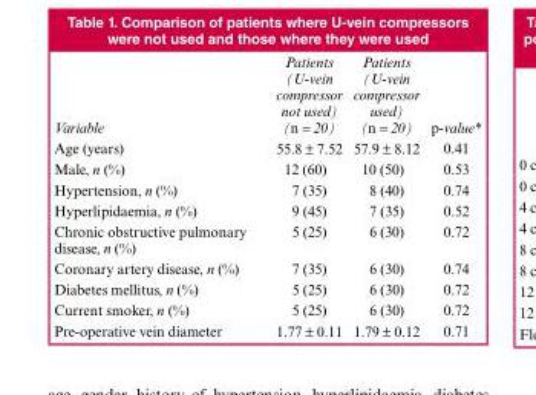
<table><thead><tr><td>Variable</td><td>Patients (U-vein compressor not used) (n = 20)</td><td>Patients (U-vein compressor used) (n = 20)</td><td>p-value*</td></tr></thead><tbody><tr><td>Age (years)</td><td>55.8 ± 7.52</td><td>57.9 ± 8.12</td><td>0.41</td></tr><tr><td>Male, n (%)</td><td>12 (60)</td><td>10 (50)</td><td>0.53</td></tr><tr><td>Hypertension, n (%)</td><td>7 (35)</td><td>8 (40)</td><td>0.74</td></tr><tr><td>Hyperlipidaemia, n (%)</td><td>9 (45)</td><td>7 (35)</td><td>0.52</td></tr><tr><td>Chronic obstructive pulmonary disease, n (%)</td><td>5 (25)</td><td>6 (30)</td><td>0.72</td></tr><tr><td>Coronary artery disease, n (%)</td><td>7 (35)</td><td>6 (30)</td><td>0.74</td></tr><tr><td>Diabetes mellitus, n (%)</td><td>5 (25)</td><td>6 (30)</td><td>0.72</td></tr><tr><td>Current smoker, n (%)</td><td>5 (25)</td><td>6 (30)</td><td>0.72</td></tr><tr><td>Pre-operative vein diameter</td><td>1.77 ± 0.11</td><td>1.79 ± 0.12</td><td>0.71</td></tr></tbody></table>